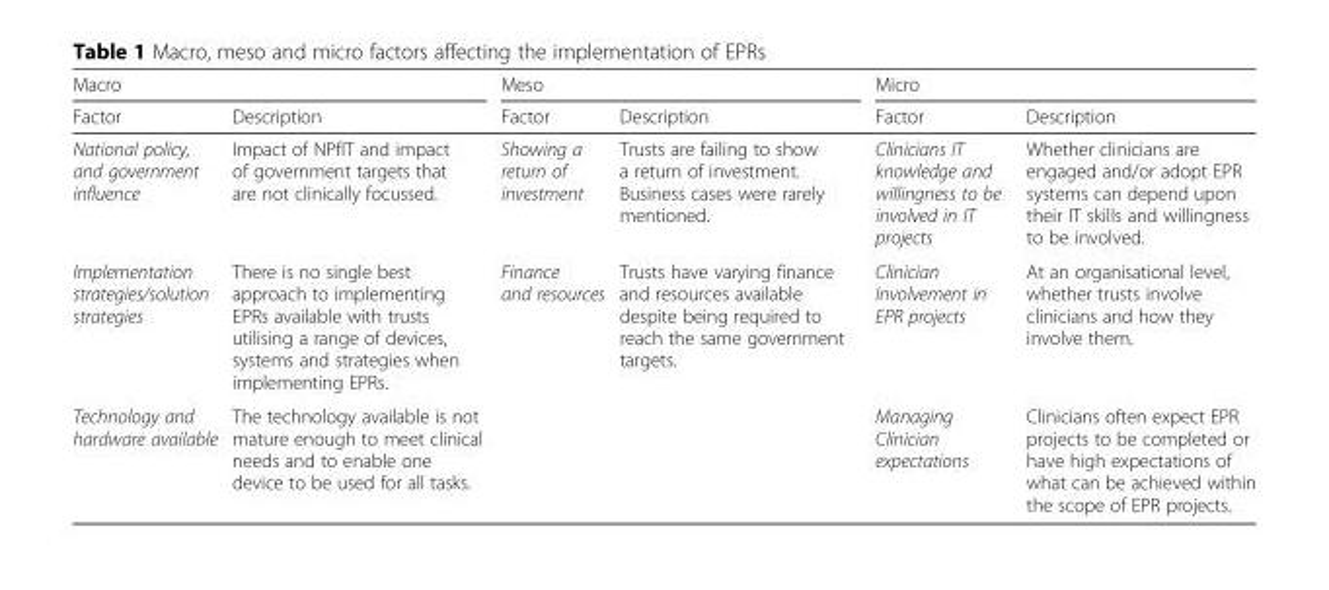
<table><thead><tr><td colspan="2">Macro</td><td colspan="2">Meso</td><td colspan="2">Micro</td></tr><tr><td>Factor</td><td>Description</td><td>Factor</td><td>Description</td><td>Factor</td><td>Description</td></tr></thead><tbody><tr><td>National policy, and government influence</td><td>Impact of NPfIT and impact of government targets that are not clinically focussed.</td><td>Showing a return of investment</td><td>Trusts are failing to show a return of investment. Business cases were rarely mentioned.</td><td>Clinicians IT knowledge and willingness to be involved in IT projects</td><td>Whether clinicians are engaged and/or adopt EPR systems can depend upon their IT skills and willingness to be involved.</td></tr><tr><td>Implementation strategies/solution strategies</td><td>There is no single best approach to implementing EPRs available with trusts utilising a range of devices, systems and strategies when implementing EPRs.</td><td>Finance and resources</td><td>Trusts have varying finance and resources available despite being required to reach the same government targets.</td><td>Clinician Involvement in EPR projects</td><td>At an organisational level, whether trusts involve clinicians and how they involve them.</td></tr><tr><td>Technology and hardware available</td><td>The technology available is not mature enough to meet clinical needs and to enable one device to be used for all tasks.</td><td></td><td></td><td>Managing Clinician expectations</td><td>Clinicians often expect EPR projects to be completed or have high expectations of what can be achieved within the scope of EPR projects.</td></tr></tbody></table>